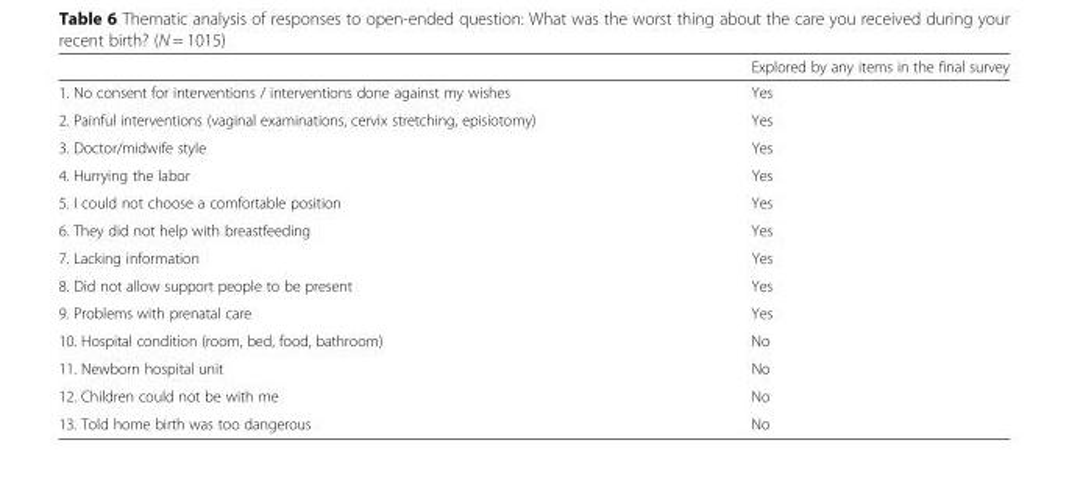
<table><thead><tr><td></td><td>Explored by any items in the final survey</td></tr></thead><tbody><tr><td>1. No consent for interventions / interventions done against my wishes</td><td>Yes</td></tr><tr><td>2. Painful interventions (vaginal examinations, cervix stretching, episiotomy)</td><td>Yes</td></tr><tr><td>3. Doctor/midwife style</td><td>Yes</td></tr><tr><td>4. Hurrying the labor</td><td>Yes</td></tr><tr><td>5. I could not choose a comfortable position</td><td>Yes</td></tr><tr><td>6. They did not help with breastfeeding</td><td>Yes</td></tr><tr><td>7. Lacking information</td><td>Yes</td></tr><tr><td>8. Did not allow support people to be present</td><td>Yes</td></tr><tr><td>9. Problems with prenatal care</td><td>Yes</td></tr><tr><td>10. Hospital condition (room, bed, food, bathroom)</td><td>No</td></tr><tr><td>11. Newborn hospital unit</td><td>No</td></tr><tr><td>12. Children could not be with me</td><td>No</td></tr><tr><td>13. Told home birth was too dangerous</td><td>No</td></tr></tbody></table>